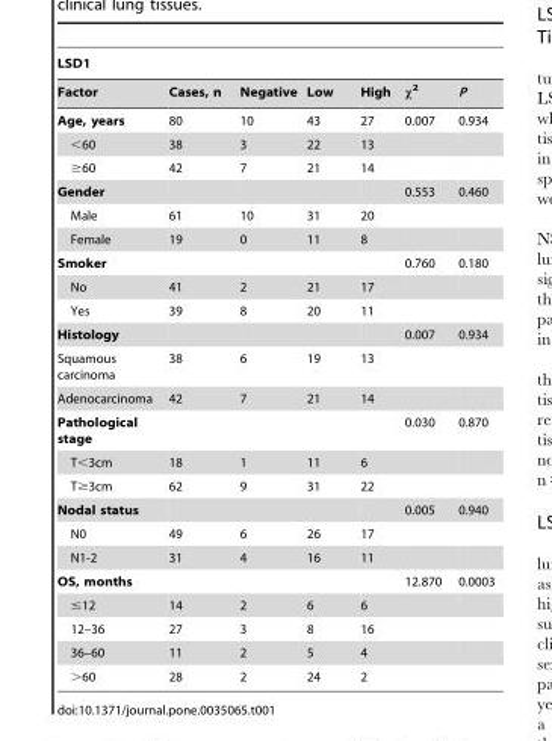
<table><thead><tr><td colspan="7">LSD1</td></tr><tr><td>Factor</td><td>Cases, n</td><td>Negative</td><td>Low</td><td>High</td><td>κ<sup>2</sup></td><td>P</td></tr></thead><tbody><tr><td>Age, years</td><td>80</td><td>10</td><td>43</td><td>27</td><td>0.007</td><td>0.934</td></tr><tr><td>&lt;60</td><td>38</td><td>3</td><td>22</td><td>13</td><td></td><td></td></tr><tr><td>≥60</td><td>42</td><td>7</td><td>21</td><td>14</td><td></td><td></td></tr><tr><td>Gender</td><td></td><td></td><td></td><td></td><td>0.553</td><td>0.460</td></tr><tr><td>Male</td><td>61</td><td>10</td><td>31</td><td>20</td><td></td><td></td></tr><tr><td>Female</td><td>19</td><td>0</td><td>11</td><td>8</td><td></td><td></td></tr><tr><td>Smoker</td><td></td><td></td><td></td><td></td><td>0.760</td><td>0.180</td></tr><tr><td>No</td><td>41</td><td>2</td><td>21</td><td>17</td><td></td><td></td></tr><tr><td>Yes</td><td>39</td><td>8</td><td>20</td><td>11</td><td></td><td></td></tr><tr><td>Histology</td><td></td><td></td><td></td><td></td><td>0.007</td><td>0.934</td></tr><tr><td>Squamous carcinoma</td><td>38</td><td>6</td><td>19</td><td>13</td><td></td><td></td></tr><tr><td>Adenocarcinoma</td><td>42</td><td>7</td><td>21</td><td>14</td><td></td><td></td></tr><tr><td>Pathological stage</td><td></td><td></td><td></td><td></td><td>0.030</td><td>0.870</td></tr><tr><td>T&lt;3cm</td><td>18</td><td>1</td><td>11</td><td>6</td><td></td><td></td></tr><tr><td>T≥3cm</td><td>62</td><td>9</td><td>31</td><td>22</td><td></td><td></td></tr><tr><td>Nodal status</td><td></td><td></td><td></td><td></td><td>0.005</td><td>0.940</td></tr><tr><td>N0</td><td>49</td><td>6</td><td>26</td><td>17</td><td></td><td></td></tr><tr><td>N1-2</td><td>31</td><td>4</td><td>16</td><td>11</td><td></td><td></td></tr><tr><td>OS, months</td><td></td><td></td><td></td><td></td><td>12.870</td><td>0.0003</td></tr><tr><td>≤12</td><td>14</td><td>2</td><td>6</td><td>6</td><td></td><td></td></tr><tr><td>12–36</td><td>27</td><td>3</td><td>8</td><td>16</td><td></td><td></td></tr><tr><td>36–60</td><td>11</td><td>2</td><td>5</td><td>4</td><td></td><td></td></tr><tr><td>&gt;60</td><td>28</td><td>2</td><td>24</td><td>2</td><td></td><td></td></tr></tbody></table>